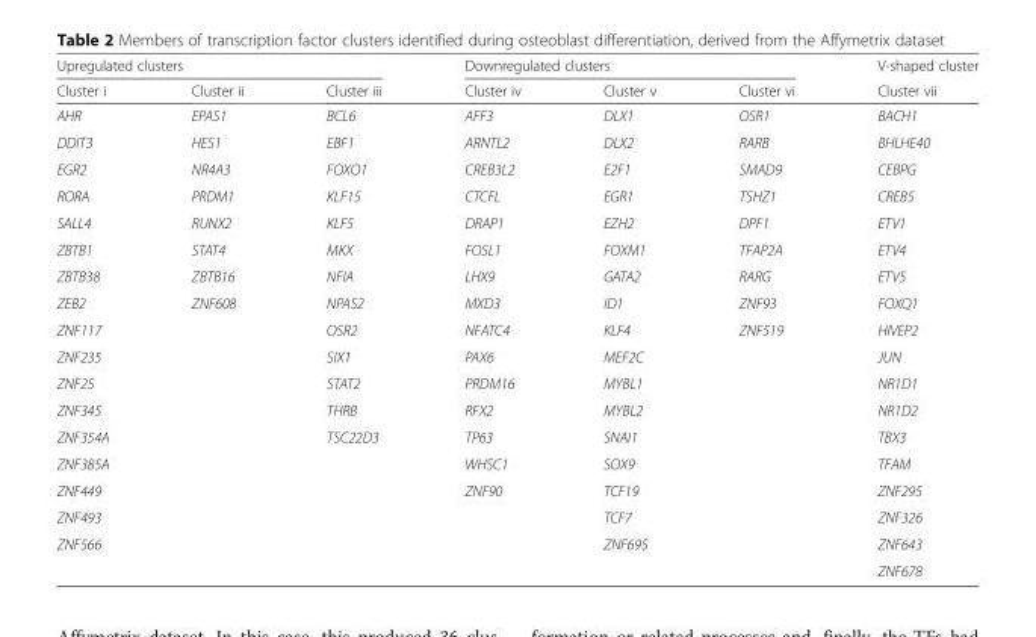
<table><thead><tr><td colspan="3">Upregulated clusters</td><td colspan="3">Downregulated clusters</td><td rowspan="2">V-shaped cluster Cluster vii</td></tr><tr><td>Cluster i</td><td>Cluster ii</td><td>Cluster iii</td><td>Cluster iv</td><td>Cluster v</td><td>Cluster vi</td></tr></thead><tbody><tr><td>AHR</td><td>EPAS1</td><td>BCL6</td><td>AFF3</td><td>DLX1</td><td>OSR1</td><td>BACH1</td></tr><tr><td>DDIT3</td><td>HES1</td><td>EBF1</td><td>ARNTL2</td><td>DLX2</td><td>RARB</td><td>BHLHE40</td></tr><tr><td>EGR2</td><td>NR4A3</td><td>FOXO1</td><td>CREB3L2</td><td>E2F1</td><td>SMAD9</td><td>CEBPG</td></tr><tr><td>RORA</td><td>PRDM1</td><td>KLF15</td><td>CTCFL</td><td>EGR1</td><td>TSHZ1</td><td>CREB5</td></tr><tr><td>SALL4</td><td>RUNX2</td><td>KLF5</td><td>DRAP1</td><td>EZH2</td><td>DPF1</td><td>ETV1</td></tr><tr><td>ZBTB1</td><td>STAT4</td><td>MKX</td><td>FOSL1</td><td>FOXM1</td><td>TFAP2A</td><td>ETV4</td></tr><tr><td>ZBTB38</td><td>ZBTB16</td><td>NFIA</td><td>LHX9</td><td>GATA2</td><td>RARG</td><td>ETV5</td></tr><tr><td>ZEB2</td><td>ZNF608</td><td>NPAS2</td><td>MXD3</td><td>ID1</td><td>ZNF93</td><td>FOXQ1</td></tr><tr><td>ZNF117</td><td></td><td>OSR2</td><td>NFATC4</td><td>KLF4</td><td>ZNF519</td><td>HIVEP2</td></tr><tr><td>ZNF235</td><td></td><td>SIX1</td><td>PAX6</td><td>MEF2C</td><td></td><td>JUN</td></tr><tr><td>ZNF25</td><td></td><td>STAT2</td><td>PRDM16</td><td>MYBL1</td><td></td><td>NR1D1</td></tr><tr><td>ZNF345</td><td></td><td>THRB</td><td>RFX2</td><td>MYBL2</td><td></td><td>NR1D2</td></tr><tr><td>ZNF354A</td><td></td><td>TSC22D3</td><td>TP63</td><td>SNAI1</td><td></td><td>TBX3</td></tr><tr><td>ZNF385A</td><td></td><td></td><td>WHSC1</td><td>SOX9</td><td></td><td>TFAM</td></tr><tr><td>ZNF449</td><td></td><td></td><td>ZNF90</td><td>TCF19</td><td></td><td>ZNF295</td></tr><tr><td>ZNF493</td><td></td><td></td><td></td><td>TCF7</td><td></td><td>ZNF326</td></tr><tr><td rowspan="2">ZNF566</td><td></td><td></td><td></td><td>ZNF695</td><td></td><td>ZNF643</td></tr><tr><td></td><td></td><td></td><td></td><td></td><td>ZNF678</td></tr></tbody></table>